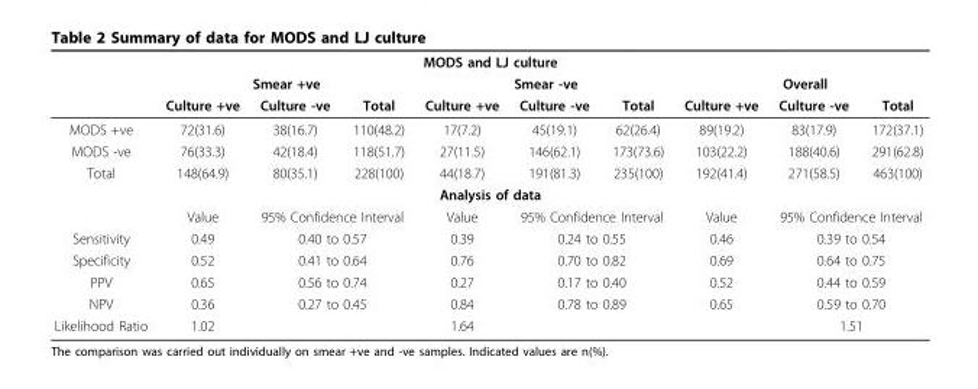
<table><thead><tr><td colspan="10">MODS and LJ culture</td></tr><tr><td rowspan="2"></td><td colspan="3">Smear +ve</td><td colspan="3">Smear -ve</td><td colspan="3">Overall</td></tr><tr><td>Culture +ve</td><td>Culture -ve</td><td>Total</td><td>Culture +ve</td><td>Culture -ve</td><td>Total</td><td>Culture +ve</td><td>Culture -ve</td><td>Total</td></tr></thead><tbody><tr><td>MODS +ve</td><td>72(31.6)</td><td>38(16.7)</td><td>110(48.2)</td><td>17(7.2)</td><td>45(19.1)</td><td>62(26.4)</td><td>89(19.2)</td><td>83(17.9)</td><td>172(37.1)</td></tr><tr><td>MODS -ve</td><td>76(33.3)</td><td>42(18.4)</td><td>118(51.7)</td><td>27(11.5)</td><td>146(62.1)</td><td>173(73.6)</td><td>103(22.2)</td><td>188(40.6)</td><td>291(62.8)</td></tr><tr><td>Total</td><td>148(64.9)</td><td>80(35.1)</td><td>228(100)</td><td>44(18.7)</td><td>191(81.3)</td><td>235(100)</td><td>192(41.4)</td><td>271(58.5)</td><td>463(100)</td></tr><tr><td colspan="10">Analysis of data</td></tr><tr><td></td><td>Value</td><td colspan="2">95% Confidence Interval</td><td>Value</td><td colspan="2">95% Confidence Interval</td><td>Value</td><td colspan="2">95% Confidence Interval</td></tr><tr><td>Sensitivity</td><td>0.49</td><td colspan="2">0.40 to 0.57</td><td>0.39</td><td colspan="2">0.24 to 0.55</td><td>0.46</td><td colspan="2">0.39 to 0.54</td></tr><tr><td>Specificity</td><td>0.52</td><td colspan="2">0.41 to 0.64</td><td>0.76</td><td colspan="2">0.70 to 0.82</td><td>0.69</td><td colspan="2">0.64 to 0.75</td></tr><tr><td>PPV</td><td>0.65</td><td colspan="2">0.56 to 0.74</td><td>0.27</td><td colspan="2">0.17 to 0.40</td><td>0.52</td><td colspan="2">0.44 to 0.59</td></tr><tr><td>NPV</td><td>0.36</td><td colspan="2">0.27 to 0.45</td><td>0.84</td><td colspan="2">0.78 to 0.89</td><td>0.65</td><td colspan="2">0.59 to 0.70</td></tr><tr><td>Likelihood Ratio</td><td>1.02</td><td></td><td></td><td>1.64</td><td></td><td></td><td></td><td colspan="2">1.51</td></tr></tbody></table>